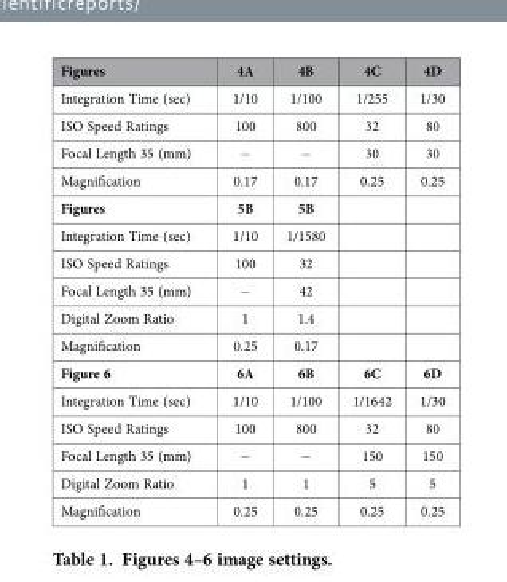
<table><thead><tr><td>Figures</td><td>4A</td><td>4B</td><td>4C</td><td>4D</td></tr></thead><tbody><tr><td>Integration Time (sec)</td><td>1/10</td><td>1/100</td><td>1/255</td><td>1/30</td></tr><tr><td>ISO Speed Ratings</td><td>100</td><td>800</td><td>32</td><td>80</td></tr><tr><td>Focal Length 35 (mm)</td><td>−</td><td>−</td><td>30</td><td>30</td></tr><tr><td>Magnification</td><td>0.17</td><td>0.17</td><td>0.25</td><td>0.25</td></tr><tr><td>Figures</td><td>5B</td><td>5B</td><td></td><td></td></tr><tr><td>Integration Time (sec)</td><td>1/10</td><td>1/1580</td><td></td><td></td></tr><tr><td>ISO Speed Ratings</td><td>100</td><td>32</td><td></td><td></td></tr><tr><td>Focal Length 35 (mm)</td><td>−</td><td>42</td><td></td><td></td></tr><tr><td>Digital Zoom Ratio</td><td>1</td><td>1.4</td><td></td><td></td></tr><tr><td>Magnification</td><td>0.25</td><td>0.17</td><td></td><td></td></tr><tr><td>Figure 6</td><td>6A</td><td>6B</td><td>6C</td><td>6D</td></tr><tr><td>Integration Time (sec)</td><td>1/10</td><td>1/100</td><td>1/1642</td><td>1/30</td></tr><tr><td>ISO Speed Ratings</td><td>100</td><td>800</td><td>32</td><td>80</td></tr><tr><td>Focal Length 35 (mm)</td><td>−</td><td>−</td><td>150</td><td>150</td></tr><tr><td>Digital Zoom Ratio</td><td>1</td><td>1</td><td>5</td><td>5</td></tr><tr><td>Magnification</td><td>0.25</td><td>0.25</td><td>0.25</td><td>0.25</td></tr></tbody></table>